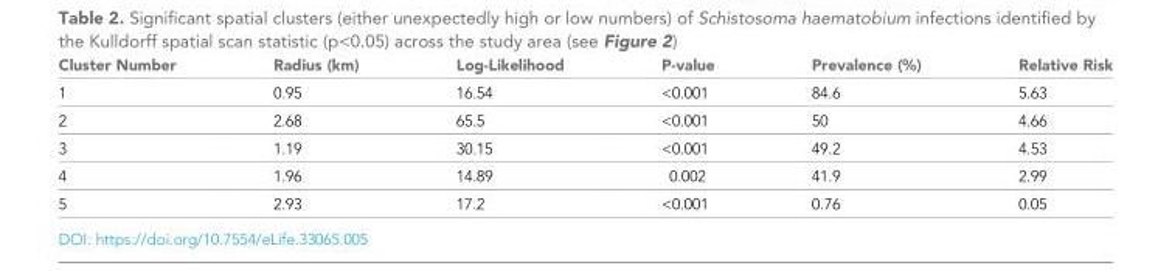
<table><thead><tr><td>Cluster Number</td><td>Radius (km)</td><td>Log-Likelihood</td><td>P-value</td><td>Prevalence (%)</td><td>Relative Risk</td></tr></thead><tbody><tr><td>1</td><td>0.95</td><td>16.54</td><td>&lt;0.001</td><td>84.6</td><td>5.63</td></tr><tr><td>2</td><td>2.68</td><td>65.5</td><td>&lt;0.001</td><td>50</td><td>4.66</td></tr><tr><td>3</td><td>1.19</td><td>30.15</td><td>&lt;0.001</td><td>49.2</td><td>4.53</td></tr><tr><td>4</td><td>1.96</td><td>14.89</td><td>0.002</td><td>41.9</td><td>2.99</td></tr><tr><td>5</td><td>2.93</td><td>17.2</td><td>&lt;0.001</td><td>0.76</td><td>0.05</td></tr></tbody></table>